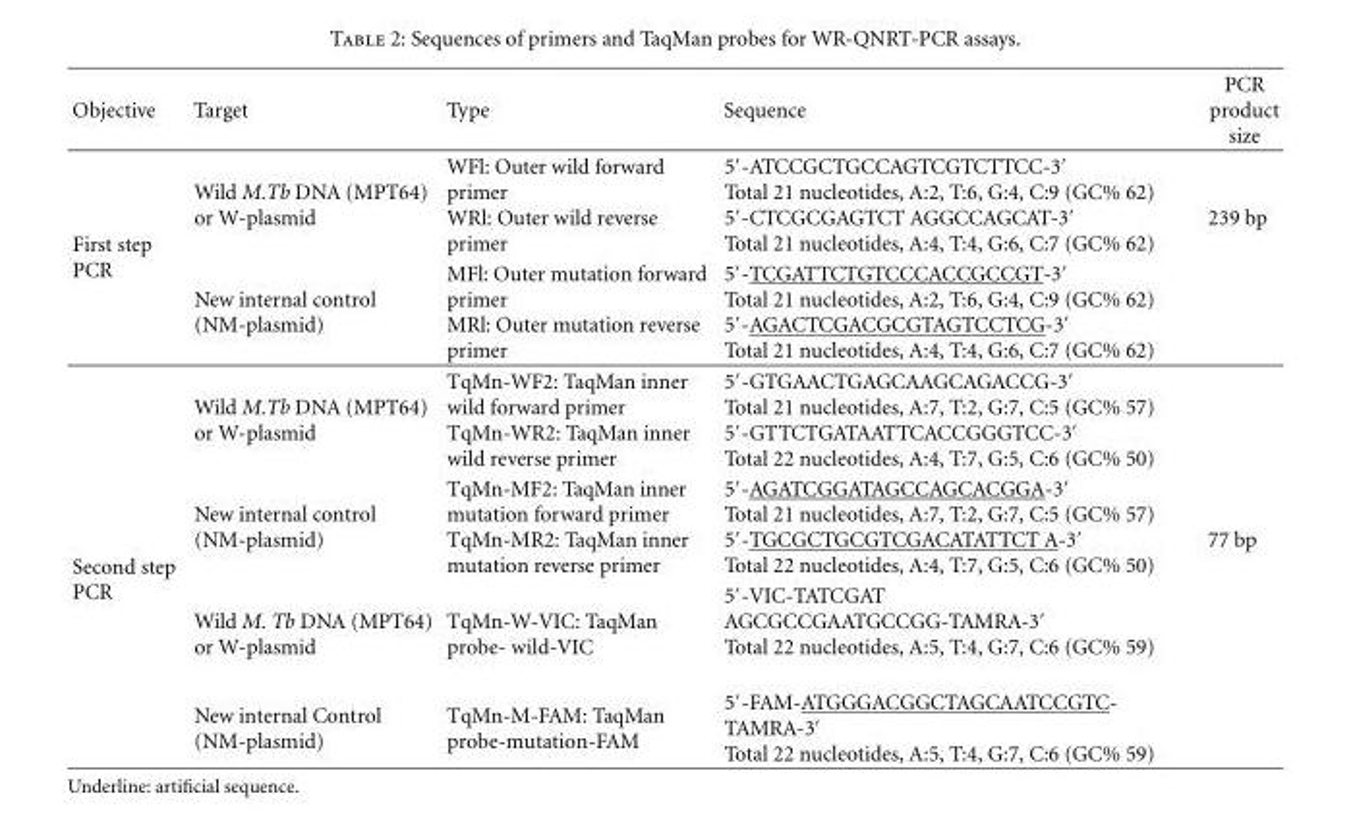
<table><thead><tr><td>Objective</td><td>Target</td><td>Type</td><td>Sequence</td><td>PCR product size</td></tr></thead><tbody><tr><td rowspan="3">First step PCR</td><td>Wild M.Tb DNA (MPT64) or W-plasmid</td><td>WFl: Outer wild forward primer WRl: Outer wild reverse primer</td><td>5′-ATCCGCTGCCAGTCGTCTTCC-3′ Total 21 nucleotides, A:2, T:6, G:4, C:9 (GC% 62) 5′-CTCGCGAGTCT AGGCCAGCAT-3′ Total 21 nucleotides, A:4, T:4, G:6, C:7 (GC% 62)</td><td rowspan="2">239 bp</td></tr><tr><td>New internal control (NM-plasmid)</td><td>MFl: Outer mutation forward primer MRl: Outer mutation reverse primer</td><td>5′-TCGATTCTGTCCCACCGCCGT-3′ Total 21 nucleotides, A:2, T:6, G:4, C:9 (GC% 62) 5′-AGACTCGACGCGTAGTCCTCG-3′ Total 21 nucleotides, A:4, T:4, G:6, C:7 (GC% 62)</td></tr><tr><td>Wild M.Tb DNA (MPT64) or W-plasmid</td><td>TqMn-WF2: TaqMan inner wild forward primer TqMn-WR2: TaqMan inner wild reverse primer</td><td>5′-GTGAACTGAGCAAGCAGACCG-3′ Total 21 nucleotides, A:7, T:2, G:7, C:5 (GC% 57) 5′-GTTCTGATAATTCACCGGGTCC-3′ Total 22 nucleotides, A:4, T:7, G:5, C:6 (GC% 50)</td><td rowspan="4">77 bp</td></tr><tr><td rowspan="3">Second step PCR</td><td>New internal control (NM-plasmid)</td><td>TqMn-MF2: TaqMan inner mutation forward primer TqMn-MR2: TaqMan inner mutation reverse primer</td><td>5′-AGATCGGATAGCCAGCACGGA-3′ Total 21 nucleotides, A:7, T:2, G:7, C:5 (GC% 57) 5′-TGCGCTGCGTCGACATATTCT A-3′ Total 22 nucleotides, A:4, T:7, G:5, C:6 (GC% 50)</td></tr><tr><td>Wild M. Tb DNA (MPT64) or W-plasmid</td><td>TqMn-W-VIC: TaqMan probe- wild-VIC</td><td>5′-VIC-TATCGAT AGCGCCGAATGCCGG-TAMRA-3′ Total 22 nucleotides, A:5, T:4, G:7, C:6 (GC% 59)</td></tr><tr><td>New internal Control (NM-plasmid)</td><td>TqMn-M-FAM: TaqMan probe-mutation-FAM</td><td>5′-FAM-ATGGGACGGCTAGCAATCCGTC- TAMRA-3′ Total 22 nucleotides, A:5, T:4, G:7, C:6 (GC% 59)</td></tr></tbody></table>